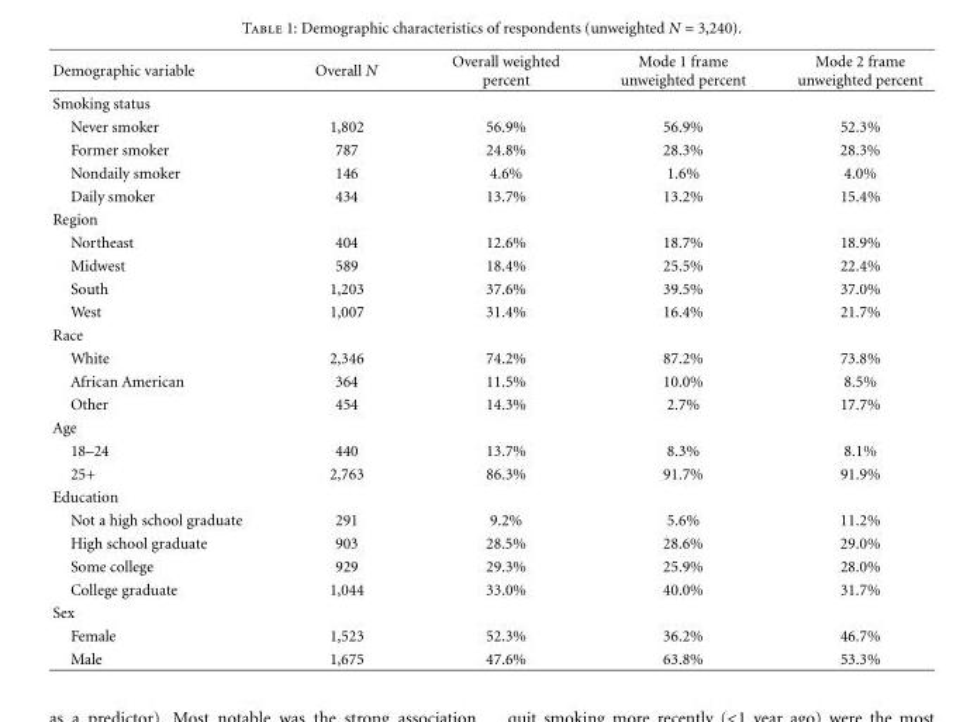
<table><thead><tr><td>Demographic variable</td><td>Overall N</td><td>Overall weighted percent</td><td>Mode 1 frame unweighted percent</td><td>Mode 2 frame unweighted percent</td></tr></thead><tbody><tr><td colspan="5">Smoking status</td></tr><tr><td>Never smoker</td><td>1,802</td><td>56.9%</td><td>56.9%</td><td>52.3%</td></tr><tr><td>Former smoker</td><td>787</td><td>24.8%</td><td>28.3%</td><td>28.3%</td></tr><tr><td>Nondaily smoker</td><td>146</td><td>4.6%</td><td>1.6%</td><td>4.0%</td></tr><tr><td>Daily smoker</td><td>434</td><td>13.7%</td><td>13.2%</td><td>15.4%</td></tr><tr><td colspan="5">Region</td></tr><tr><td>Northeast</td><td>404</td><td>12.6%</td><td>18.7%</td><td>18.9%</td></tr><tr><td>Midwest</td><td>589</td><td>18.4%</td><td>25.5%</td><td>22.4%</td></tr><tr><td>South</td><td>1,203</td><td>37.6%</td><td>39.5%</td><td>37.0%</td></tr><tr><td>West</td><td>1,007</td><td>31.4%</td><td>16.4%</td><td>21.7%</td></tr><tr><td colspan="5">Race</td></tr><tr><td>White</td><td>2,346</td><td>74.2%</td><td>87.2%</td><td>73.8%</td></tr><tr><td>African American</td><td>364</td><td>11.5%</td><td>10.0%</td><td>8.5%</td></tr><tr><td>Other</td><td>454</td><td>14.3%</td><td>2.7%</td><td>17.7%</td></tr><tr><td colspan="5">Age</td></tr><tr><td>18–24</td><td>440</td><td>13.7%</td><td>8.3%</td><td>8.1%</td></tr><tr><td>25+</td><td>2,763</td><td>86.3%</td><td>91.7%</td><td>91.9%</td></tr><tr><td colspan="5">Education</td></tr><tr><td>Not a high school graduate</td><td>291</td><td>9.2%</td><td>5.6%</td><td>11.2%</td></tr><tr><td>High school graduate</td><td>903</td><td>28.5%</td><td>28.6%</td><td>29.0%</td></tr><tr><td>Some college</td><td>929</td><td>29.3%</td><td>25.9%</td><td>28.0%</td></tr><tr><td>College graduate</td><td>1,044</td><td>33.0%</td><td>40.0%</td><td>31.7%</td></tr><tr><td colspan="5">Sex</td></tr><tr><td>Female</td><td>1,523</td><td>52.3%</td><td>36.2%</td><td>46.7%</td></tr><tr><td>Male</td><td>1,675</td><td>47.6%</td><td>63.8%</td><td>53.3%</td></tr></tbody></table>